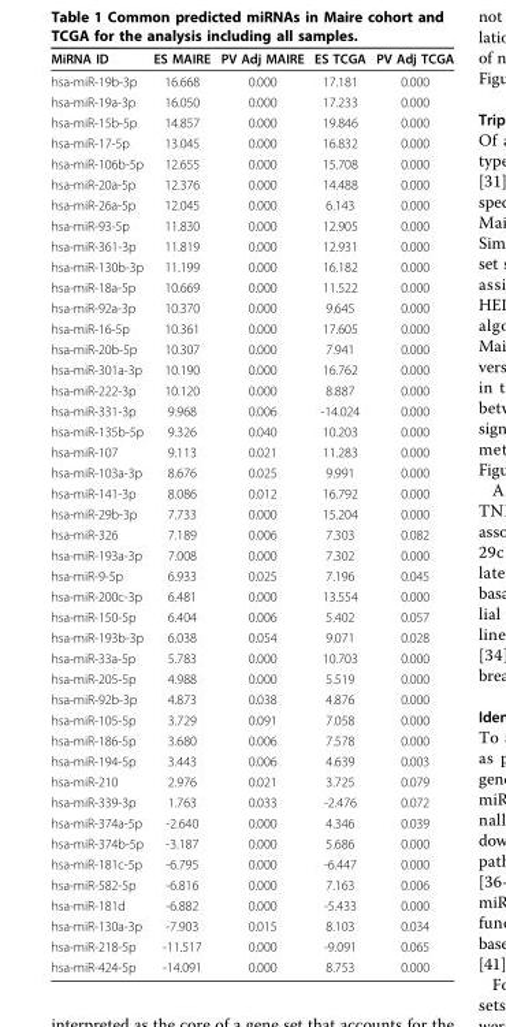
<table><thead><tr><td>MiRNA ID</td><td>ES MAIRE</td><td>PV Adj MAIRE</td><td>ES TCGA</td><td>PV Adj TCGA</td></tr></thead><tbody><tr><td>hsa-miR-19b-3p</td><td>16.668</td><td>0.000</td><td>17.181</td><td>0.000</td></tr><tr><td>hsa-miR-19a-3p</td><td>16.050</td><td>0.000</td><td>17.233</td><td>0.000</td></tr><tr><td>hsa-miR-15b-5p</td><td>14.857</td><td>0.000</td><td>19.846</td><td>0.000</td></tr><tr><td>hsa-miR-17-5p</td><td>13.045</td><td>0.000</td><td>16.832</td><td>0.000</td></tr><tr><td>hsa-miR-106b-5p</td><td>12.655</td><td>0.000</td><td>15.708</td><td>0.000</td></tr><tr><td>hsa-miR-20a-5p</td><td>12.376</td><td>0.000</td><td>14.488</td><td>0.000</td></tr><tr><td>hsa-miR-26a-5p</td><td>12.045</td><td>0.000</td><td>6.143</td><td>0.000</td></tr><tr><td>hsa-miR-93-5p</td><td>11.830</td><td>0.000</td><td>12.905</td><td>0.000</td></tr><tr><td>hsa-miR-361-3p</td><td>11.819</td><td>0.000</td><td>12.931</td><td>0.000</td></tr><tr><td>hsa-miR-130b-3p</td><td>11.199</td><td>0.000</td><td>16.182</td><td>0.000</td></tr><tr><td>hsa-miR-18a-5p</td><td>10.669</td><td>0.000</td><td>11.522</td><td>0.000</td></tr><tr><td>hsa-miR-92a-3p</td><td>10.370</td><td>0.000</td><td>9.645</td><td>0.000</td></tr><tr><td>hsa-miR-16-5p</td><td>10.361</td><td>0.000</td><td>17.605</td><td>0.000</td></tr><tr><td>hsa-miR-20b-5p</td><td>10.307</td><td>0.000</td><td>7.941</td><td>0.000</td></tr><tr><td>hsa-miR-301a-3p</td><td>10.190</td><td>0.000</td><td>16.762</td><td>0.000</td></tr><tr><td>hsa-miR-222-3p</td><td>10.120</td><td>0.000</td><td>8.887</td><td>0.000</td></tr><tr><td>hsa-miR-331-3p</td><td>9.968</td><td>0.006</td><td>-14.024</td><td>0.000</td></tr><tr><td>hsa-miR-135b-5p</td><td>9.326</td><td>0.040</td><td>10.203</td><td>0.000</td></tr><tr><td>hsa-miR-107</td><td>9.113</td><td>0.021</td><td>11.283</td><td>0.000</td></tr><tr><td>hsa-miR-103a-3p</td><td>8.676</td><td>0.025</td><td>9.991</td><td>0.000</td></tr><tr><td>hsa-miR-141-3p</td><td>8.086</td><td>0.012</td><td>16.792</td><td>0.000</td></tr><tr><td>hsa-miR-29b-3p</td><td>7.733</td><td>0.000</td><td>15.204</td><td>0.000</td></tr><tr><td>hsa-miR-326</td><td>7.189</td><td>0.006</td><td>7.303</td><td>0.082</td></tr><tr><td>hsa-miR-193a-3p</td><td>7.008</td><td>0.000</td><td>7.302</td><td>0.000</td></tr><tr><td>hsa-miR-9-5p</td><td>6.933</td><td>0.025</td><td>7.196</td><td>0.045</td></tr><tr><td>hsa-miR-200c-3p</td><td>6.481</td><td>0.000</td><td>13.554</td><td>0.000</td></tr><tr><td>hsa-miR-150-5p</td><td>6.404</td><td>0.006</td><td>5.402</td><td>0.057</td></tr><tr><td>hsa-miR-193b-3p</td><td>6.038</td><td>0.054</td><td>9.071</td><td>0.028</td></tr><tr><td>hsa-miR-33a-5p</td><td>5.783</td><td>0.000</td><td>10.703</td><td>0.000</td></tr><tr><td>hsa-miR-205-5p</td><td>4.988</td><td>0.000</td><td>5.519</td><td>0.000</td></tr><tr><td>hsa-miR-92b-3p</td><td>4.873</td><td>0.038</td><td>4.876</td><td>0.000</td></tr><tr><td>hsa-miR-105-5p</td><td>3.729</td><td>0.091</td><td>7.058</td><td>0.000</td></tr><tr><td>hsa-miR-186-5p</td><td>3.680</td><td>0.006</td><td>7.578</td><td>0.000</td></tr><tr><td>hsa-miR-194-5p</td><td>3.443</td><td>0.006</td><td>4.639</td><td>0.003</td></tr><tr><td>hsa-miR-210</td><td>2.976</td><td>0.021</td><td>3.725</td><td>0.079</td></tr><tr><td>hsa-miR-339-3p</td><td>1.763</td><td>0.033</td><td>-2.476</td><td>0.072</td></tr><tr><td>hsa-miR-374a-5p</td><td>-2.640</td><td>0.000</td><td>4.346</td><td>0.039</td></tr><tr><td>hsa-miR-374b-5p</td><td>-3.187</td><td>0.000</td><td>5.686</td><td>0.000</td></tr><tr><td>hsa-miR-181c-5p</td><td>-6.795</td><td>0.000</td><td>-6.447</td><td>0.000</td></tr><tr><td>hsa-miR-582-5p</td><td>-6.816</td><td>0.000</td><td>7.163</td><td>0.006</td></tr><tr><td>hsa-miR-181d</td><td>-6.882</td><td>0.000</td><td>-5.433</td><td>0.000</td></tr><tr><td>hsa-miR-130a-3p</td><td>-7.903</td><td>0.015</td><td>8.103</td><td>0.034</td></tr><tr><td>hsa-miR-218-5p</td><td>-11.517</td><td>0.000</td><td>-9.091</td><td>0.065</td></tr><tr><td>hsa-miR-424-5p</td><td>-14.091</td><td>0.000</td><td>8.753</td><td>0.000</td></tr></tbody></table>